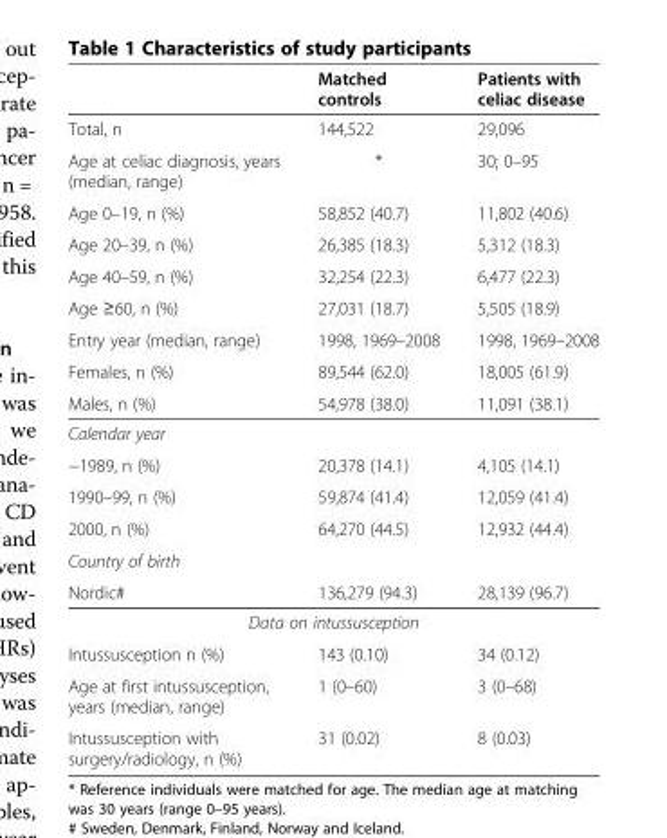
<table><thead><tr><td></td><td>Matched controls</td><td>Patients with celiac disease</td></tr></thead><tbody><tr><td>Total, n</td><td>144,522</td><td>29,096</td></tr><tr><td>Age at celiac diagnosis, years (median, range)</td><td>*</td><td>30; 0–95</td></tr><tr><td>Age 0–19, n (%)</td><td>58,852 (40.7)</td><td>11,802 (40.6)</td></tr><tr><td>Age 20–39, n (%)</td><td>26,385 (18.3)</td><td>5,312 (18.3)</td></tr><tr><td>Age 40–59, n (%)</td><td>32,254 (22.3)</td><td>6,477 (22.3)</td></tr><tr><td>Age ≥60, n (%)</td><td>27,031 (18.7)</td><td>5,505 (18.9)</td></tr><tr><td>Entry year (median, range)</td><td>1998, 1969–2008</td><td>1998, 1969–2008</td></tr><tr><td>Females, n (%)</td><td>89,544 (62.0)</td><td>18,005 (61.9)</td></tr><tr><td>Males, n (%)</td><td>54,978 (38.0)</td><td>11,091 (38.1)</td></tr><tr><td colspan="3">Calendar year</td></tr><tr><td>−1989, n (%)</td><td>20,378 (14.1)</td><td>4,105 (14.1)</td></tr><tr><td>1990–99, n (%)</td><td>59,874 (41.4)</td><td>12,059 (41.4)</td></tr><tr><td>2000, n (%)</td><td>64,270 (44.5)</td><td>12,932 (44.4)</td></tr><tr><td colspan="3">Country of birth</td></tr><tr><td>Nordic#</td><td>136,279 (94.3)</td><td>28,139 (96.7)</td></tr><tr><td colspan="3">Data on intussusception</td></tr><tr><td>Intussusception n (%)</td><td>143 (0.10)</td><td>34 (0.12)</td></tr><tr><td>Age at first intussusception, years (median, range)</td><td>1 (0–60)</td><td>3 (0–68)</td></tr><tr><td>Intussusception with surgery/radiology, n (%)</td><td>31 (0.02)</td><td>8 (0.03)</td></tr></tbody></table>